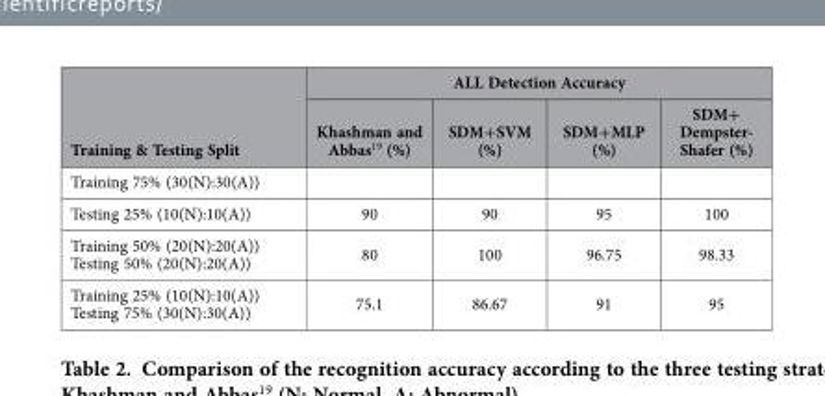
<table><thead><tr><td rowspan="2">Training &amp; Testing Split</td><td colspan="4">ALL Detection Accuracy</td></tr><tr><td>Khashman and Abbas<sup>19</sup> (%)</td><td>SDM+SVM (%)</td><td>SDM+MLP (%)</td><td>SDM+ Dempster- Shafer (%)</td></tr></thead><tbody><tr><td colspan="5">Training 75% (30(N):30(A))</td></tr><tr><td>Testing 25% (10(N):10(A))</td><td>90</td><td>90</td><td>95</td><td>100</td></tr><tr><td>Training 50% (20(N):20(A)) Testing 50% (20(N):20(A))</td><td>80</td><td>100</td><td>96.75</td><td>98.33</td></tr><tr><td>Training 25% (10(N):10(A)) Testing 75% (30(N):30(A))</td><td>75.1</td><td>86.67</td><td>91</td><td>95</td></tr></tbody></table>